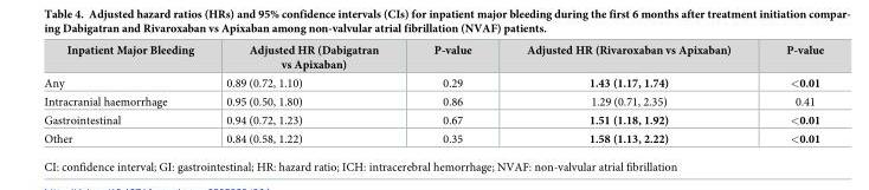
<table><thead><tr><td>Inpatient Major Bleeding</td><td>Adjusted HR (Dabigatran vs Apixaban)</td><td>P-value</td><td>Adjusted HR (Rivaroxaban vs Apixaban)</td><td>P-value</td></tr></thead><tbody><tr><td>Any</td><td>0.89 (0.72, 1.10)</td><td>0.29</td><td>1.43 (1.17, 1.74)</td><td>&lt;0.01</td></tr><tr><td>Intracranial haemorrhage</td><td>0.95 (0.50, 1.80)</td><td>0.86</td><td>1.29 (0.71, 2.35)</td><td>0.41</td></tr><tr><td>Gastrointestinal</td><td>0.94 (0.72, 1.23)</td><td>0.67</td><td>1.51 (1.18, 1.92)</td><td>&lt;0.01</td></tr><tr><td>Other</td><td>0.84 (0.58, 1.22)</td><td>0.35</td><td>1.58 (1.13, 2.22)</td><td>&lt;0.01</td></tr></tbody></table>